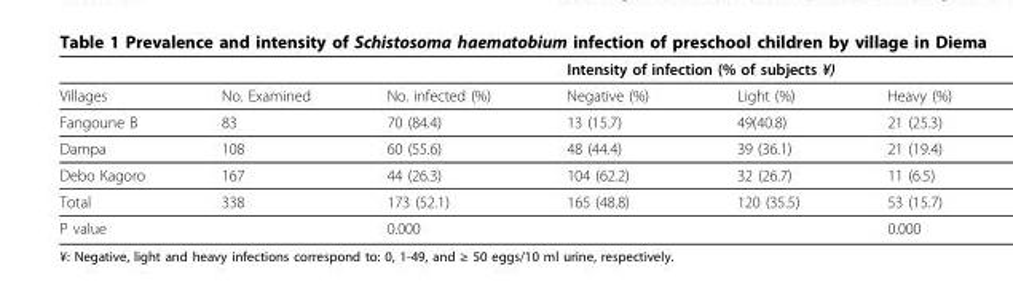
<table><thead><tr><td rowspan="2">Villages</td><td rowspan="2">No. Examined</td><td rowspan="2">No. infected (%)</td><td colspan="3">Intensity of infection (% of subjects ¥)</td></tr><tr><td>Negative (%)</td><td>Light (%)</td><td>Heavy (%)</td></tr></thead><tbody><tr><td>Fangoune B</td><td>83</td><td>70 (84.4)</td><td>13 (15.7)</td><td>49(40.8)</td><td>21 (25.3)</td></tr><tr><td>Dampa</td><td>108</td><td>60 (55.6)</td><td>48 (44.4)</td><td>39 (36.1)</td><td>21 (19.4)</td></tr><tr><td>Debo Kagoro</td><td>167</td><td>44 (26.3)</td><td>104 (62.2)</td><td>32 (26.7)</td><td>11 (6.5)</td></tr><tr><td>Total</td><td>338</td><td>173 (52.1)</td><td>165 (48.8)</td><td>120 (35.5)</td><td>53 (15.7)</td></tr><tr><td>P value</td><td></td><td>0.000</td><td></td><td></td><td>0.000</td></tr></tbody></table>